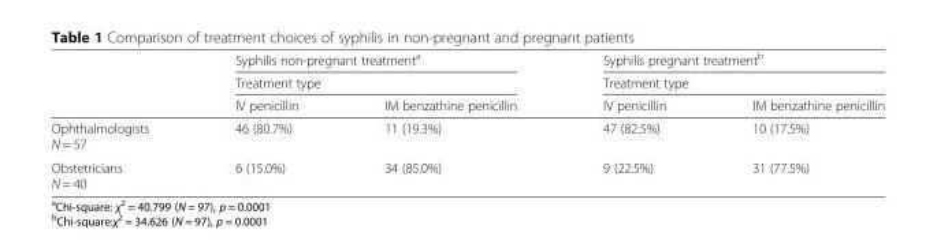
<table><thead><tr><td rowspan="3"></td><td rowspan="2" colspan="2">Syphilis non-pregnant treatment<sup>a</sup> Treatment type</td><td rowspan="2" colspan="2">Syphilis pregnant treatment<sup>b</sup> Treatment type</td></tr><tr></tr><tr><td>IV penicillin</td><td>IM benzathine penicillin</td><td>IV penicillin</td><td>IM benzathine penicillin</td></tr></thead><tbody><tr><td>Ophthalmologists N = 57</td><td>46 (80.7%)</td><td>11 (19.3%)</td><td>47 (82.5%)</td><td>10 (17.5%)</td></tr><tr><td>Obstetricians N = 40</td><td>6 (15.0%)</td><td>34 (85.0%)</td><td>9 (22.5%)</td><td>31 (77.5%)</td></tr></tbody></table>